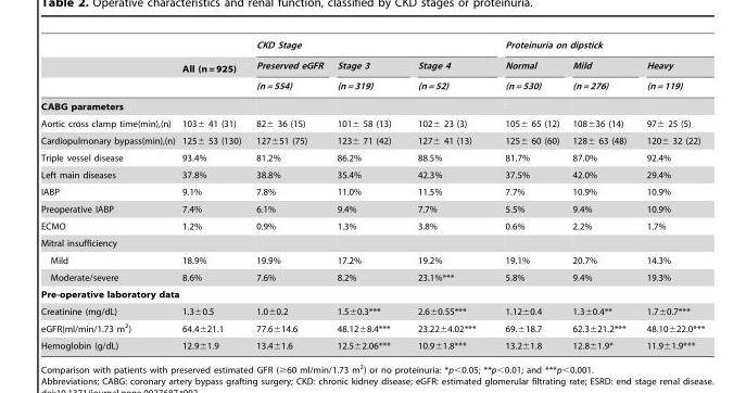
<table><thead><tr><td rowspan="3"></td><td rowspan="3">All (n = 925)</td><td colspan="3">CKD Stage</td><td colspan="3">Proteinuria on dipstick</td></tr><tr><td rowspan="2">Preserved eGFR (n = 554)</td><td rowspan="2">Stage 3 (n = 319)</td><td rowspan="2">Stage 4 (n = 52)</td><td rowspan="2">Normal (n = 530)</td><td rowspan="2">Mild (n = 276)</td><td rowspan="2">Heavy (n = 119)</td></tr><tr></tr></thead><tbody><tr><td colspan="8">CABG parameters</td></tr><tr><td>Aortic cross clamp time(min),(n)</td><td>103± 41 (31)</td><td>82± 36 (15)</td><td>101± 58 (13)</td><td>102± 23 (3)</td><td>105± 65 (12)</td><td>108±36 (14)</td><td>97± 25 (5)</td></tr><tr><td>Cardiopulmonary bypass(min),(n)</td><td>125± 53 (130)</td><td>127±51 (75)</td><td>123± 71 (42)</td><td>127± 41 (13)</td><td>125± 60 (60)</td><td>128± 63 (48)</td><td>120± 32 (22)</td></tr><tr><td>Triple vessel disease</td><td>93.4%</td><td>81.2%</td><td>86.2%</td><td>88.5%</td><td>81.7%</td><td>87.0%</td><td>92.4%</td></tr><tr><td>Left main diseases</td><td>37.8%</td><td>38.8%</td><td>35.4%</td><td>42.3%</td><td>37.5%</td><td>42.0%</td><td>29.4%</td></tr><tr><td>IABP</td><td>9.1%</td><td>7.8%</td><td>11.0%</td><td>11.5%</td><td>7.7%</td><td>10.9%</td><td>10.9%</td></tr><tr><td>Preoperative IABP</td><td>7.4%</td><td>6.1%</td><td>9.4%</td><td>7.7%</td><td>5.5%</td><td>9.4%</td><td>10.9%</td></tr><tr><td>ECMO</td><td>1.2%</td><td>0.9%</td><td>1.3%</td><td>3.8%</td><td>0.6%</td><td>2.2%</td><td>1.7%</td></tr><tr><td colspan="8">Mitral insufficiency</td></tr><tr><td>Mild</td><td>18.9%</td><td>19.9%</td><td>17.2%</td><td>19.2%</td><td>19.1%</td><td>20.7%</td><td>14.3%</td></tr><tr><td>Moderate/severe</td><td>8.6%</td><td>7.6%</td><td>8.2%</td><td>23.1%***</td><td>5.8%</td><td>9.4%</td><td>19.3%</td></tr><tr><td colspan="8">Pre-operative laboratory data</td></tr><tr><td>Creatinine (mg/dL)</td><td>1.3±0.5</td><td>1.0±0.2</td><td>1.5±0.3***</td><td>2.6±0.55***</td><td>1.12±0.4</td><td>1.3±0.4**</td><td>1.7±0.7***</td></tr><tr><td>eGFR(ml/min/1.73 m<sup>2</sup>)</td><td>64.4±21.1</td><td>77.6±14.6</td><td>48.12±8.4***</td><td>23.22±4.02***</td><td>69.±18.7</td><td>62.3±21.2***</td><td>48.10±22.0***</td></tr><tr><td>Hemoglobin (g/dL)</td><td>12.9±1.9</td><td>13.4±1.6</td><td>12.5±2.06***</td><td>10.9±1.8***</td><td>13.2±1.8</td><td>12.8±1.9*</td><td>11.9±1.9***</td></tr></tbody></table>